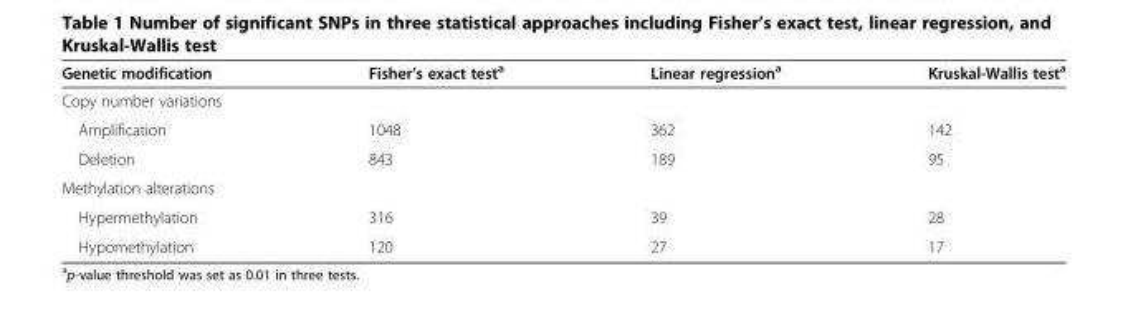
<table><thead><tr><td>Genetic modification</td><td>Fisher’s exact test<sup>a</sup></td><td>Linear regression<sup>a</sup></td><td>Kruskal-Wallis test<sup>a</sup></td></tr></thead><tbody><tr><td colspan="4">Copy number variations</td></tr><tr><td>Amplification</td><td>1048</td><td>362</td><td>142</td></tr><tr><td>Deletion</td><td>843</td><td>189</td><td>95</td></tr><tr><td colspan="4">Methylation alterations</td></tr><tr><td>Hypermethylation</td><td>316</td><td>39</td><td>28</td></tr><tr><td>Hypomethylation</td><td>120</td><td>27</td><td>17</td></tr></tbody></table>